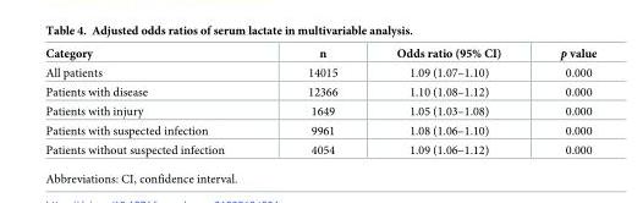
<table><thead><tr><td>Category</td><td>n</td><td>Odds ratio (95% CI)</td><td>p value</td></tr></thead><tbody><tr><td>All patients</td><td>14015</td><td>1.09 (1.07–1.10)</td><td>0.000</td></tr><tr><td>Patients with disease</td><td>12366</td><td>1.10 (1.08–1.12)</td><td>0.000</td></tr><tr><td>Patients with injury</td><td>1649</td><td>1.05 (1.03–1.08)</td><td>0.000</td></tr><tr><td>Patients with suspected infection</td><td>9961</td><td>1.08 (1.06–1.10)</td><td>0.000</td></tr><tr><td>Patients without suspected infection</td><td>4054</td><td>1.09 (1.06–1.12)</td><td>0.000</td></tr></tbody></table>